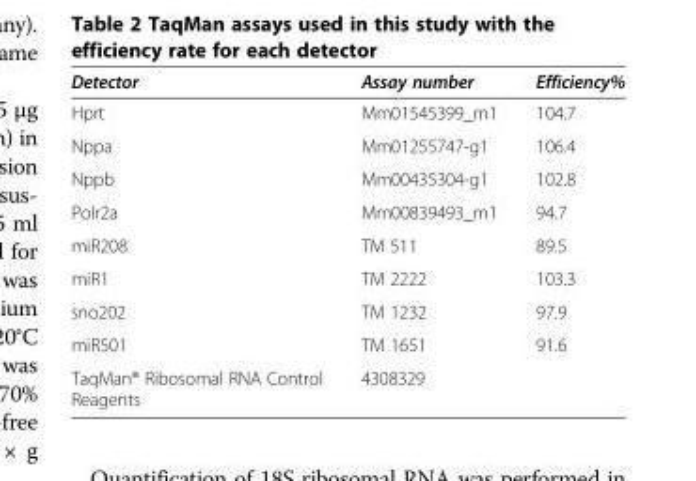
<table><thead><tr><td>Detector</td><td>Assay number</td><td>Efficiency%</td></tr></thead><tbody><tr><td>Hprt</td><td>Mm01545399_m1</td><td>104.7</td></tr><tr><td>Nppa</td><td>Mm01255747-g1</td><td>106.4</td></tr><tr><td>Nppb</td><td>Mm00435304-g1</td><td>102.8</td></tr><tr><td>Polr2a</td><td>Mm00839493_m1</td><td>94.7</td></tr><tr><td>miR208</td><td>TM 511</td><td>89.5</td></tr><tr><td>miR1</td><td>TM 2222</td><td>103.3</td></tr><tr><td>sno202</td><td>TM 1232</td><td>97.9</td></tr><tr><td>miR501</td><td>TM 1651</td><td>91.6</td></tr><tr><td>TaqMan® Ribosomal RNA Control Reagents</td><td>4308329</td><td></td></tr></tbody></table>